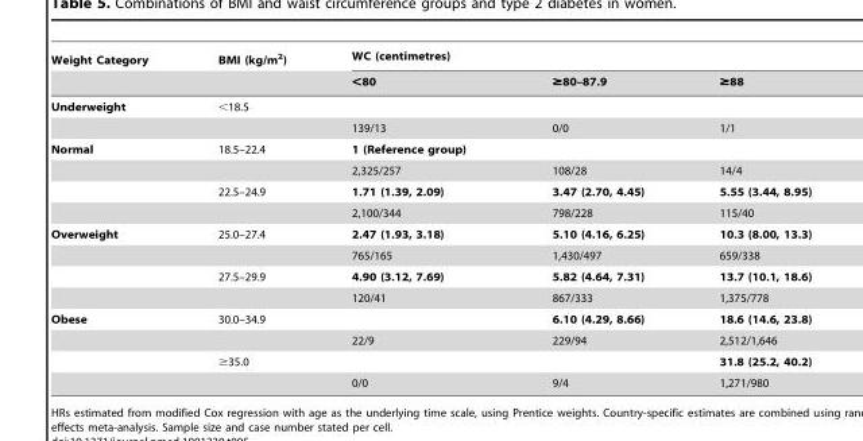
<table><thead><tr><td rowspan="2">Weight Category</td><td rowspan="2">BMI (kg/m<sup>2</sup>)</td><td colspan="3">WC (centimetres)</td></tr><tr><td>&lt;80</td><td>≥80–87.9</td><td>≥88</td></tr></thead><tbody><tr><td rowspan="2">Underweight</td><td>&lt;18.5</td><td></td><td></td><td></td></tr><tr><td></td><td>139/13</td><td>0/0</td><td>1/1</td></tr><tr><td rowspan="4">Normal</td><td>18.5–22.4</td><td>1 (Reference group)</td><td></td><td></td></tr><tr><td></td><td>2,325/257</td><td>108/28</td><td>14/4</td></tr><tr><td>22.5–24.9</td><td>1.71 (1.39, 2.09)</td><td>3.47 (2.70, 4.45)</td><td>5.55 (3.44, 8.95)</td></tr><tr><td></td><td>2,100/344</td><td>798/228</td><td>115/40</td></tr><tr><td rowspan="4">Overweight</td><td>25.0–27.4</td><td>2.47 (1.93, 3.18)</td><td>5.10 (4.16, 6.25)</td><td>10.3 (8.00, 13.3)</td></tr><tr><td></td><td>765/165</td><td>1,430/497</td><td>659/338</td></tr><tr><td>27.5–29.9</td><td>4.90 (3.12, 7.69)</td><td>5.82 (4.64, 7.31)</td><td>13.7 (10.1, 18.6)</td></tr><tr><td></td><td>120/41</td><td>867/333</td><td>1,375/778</td></tr><tr><td rowspan="4">Obese</td><td>30.0–34.9</td><td></td><td>6.10 (4.29, 8.66)</td><td>18.6 (14.6, 23.8)</td></tr><tr><td></td><td>22/9</td><td>229/94</td><td>2,512/1,646</td></tr><tr><td>≥35.0</td><td></td><td></td><td>31.8 (25.2, 40.2)</td></tr><tr><td></td><td>0/0</td><td>9/4</td><td>1,271/980</td></tr></tbody></table>